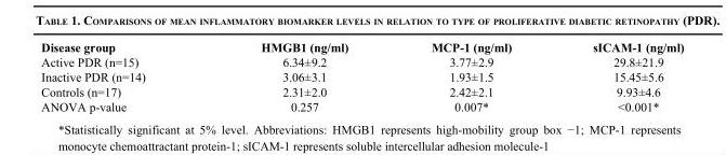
<table><thead><tr><td>Disease group</td><td>HMGB1 (ng/ml)</td><td>MCP-1 (ng/ml)</td><td>sICAM-1 (ng/ml)</td></tr></thead><tbody><tr><td>Active PDR (n=15)</td><td>6.34±9.2</td><td>3.77±2.9</td><td>29.8±21.9</td></tr><tr><td>Inactive PDR (n=14)</td><td>3.06±3.1</td><td>1.93±1.5</td><td>15.45±5.6</td></tr><tr><td>Controls (n=17)</td><td>2.31±2.0</td><td>2.42±2.1</td><td>9.93±4.6</td></tr><tr><td>ANOVA p-value</td><td>0.257</td><td>0.007*</td><td>&lt;0.001*</td></tr></tbody></table>